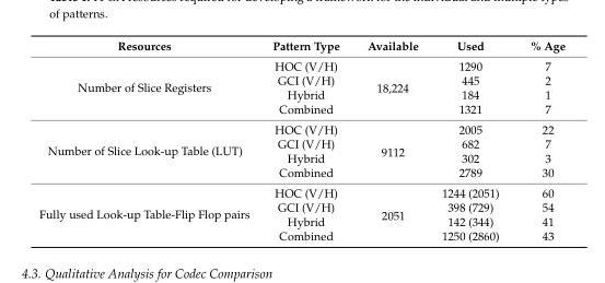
<table><thead><tr><td>Resources</td><td>Pattern Type</td><td>Available</td><td>Used</td><td>% Age</td></tr></thead><tbody><tr><td rowspan="4">Number of Slice Registers</td><td>HOC (V/H)</td><td rowspan="4">18,224</td><td>1290</td><td>7</td></tr><tr><td>GCI (V/H)</td><td>445</td><td>2</td></tr><tr><td>Hybrid</td><td>184</td><td>1</td></tr><tr><td>Combined</td><td>1321</td><td>7</td></tr><tr><td rowspan="4">Number of Slice Look-up Table (LUT)</td><td>HOC (V/H)</td><td rowspan="4">9112</td><td>2005</td><td>22</td></tr><tr><td>GCI (V/H)</td><td>682</td><td>7</td></tr><tr><td>Hybrid</td><td>302</td><td>3</td></tr><tr><td>Combined</td><td>2789</td><td>30</td></tr><tr><td rowspan="4">Fully used Look-up Table-Flip Flop pairs</td><td>HOC (V/H)</td><td rowspan="4">2051</td><td>1244 (2051)</td><td>60</td></tr><tr><td>GCI (V/H)</td><td>398 (729)</td><td>54</td></tr><tr><td>Hybrid</td><td>142 (344)</td><td>41</td></tr><tr><td>Combined</td><td>1250 (2860)</td><td>43</td></tr></tbody></table>